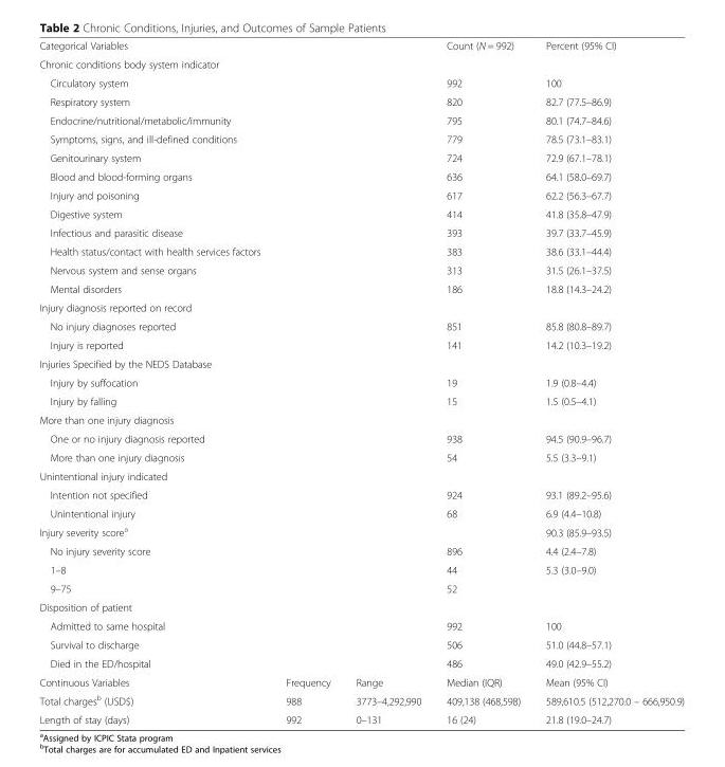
<table><tbody><tr><td>Categorical Variables</td><td></td><td></td><td>Count (N = 992)</td><td>Percent (95% CI)</td></tr><tr><td colspan="5">Chronic conditions body system indicator</td></tr><tr><td>Circulatory system</td><td></td><td></td><td>992</td><td>100</td></tr><tr><td>Respiratory system</td><td></td><td></td><td>820</td><td>82.7 (77.5–86.9)</td></tr><tr><td>Endocrine/nutritional/metabolic/immunity</td><td></td><td></td><td>795</td><td>80.1 (74.7–84.6)</td></tr><tr><td>Symptoms, signs, and ill-defined conditions</td><td></td><td></td><td>779</td><td>78.5 (73.1–83.1)</td></tr><tr><td>Genitourinary system</td><td></td><td></td><td>724</td><td>72.9 (67.1–78.1)</td></tr><tr><td>Blood and blood-forming organs</td><td></td><td></td><td>636</td><td>64.1 (58.0–69.7)</td></tr><tr><td>Injury and poisoning</td><td></td><td></td><td>617</td><td>62.2 (56.3–67.7)</td></tr><tr><td>Digestive system</td><td></td><td></td><td>414</td><td>41.8 (35.8–47.9)</td></tr><tr><td>Infectious and parasitic disease</td><td></td><td></td><td>393</td><td>39.7 (33.7–45.9)</td></tr><tr><td>Health status/contact with health services factors</td><td></td><td></td><td>383</td><td>38.6 (33.1–44.4)</td></tr><tr><td>Nervous system and sense organs</td><td></td><td></td><td>313</td><td>31.5 (26.1–37.5)</td></tr><tr><td>Mental disorders</td><td></td><td></td><td>186</td><td>18.8 (14.3–24.2)</td></tr><tr><td colspan="5">Injury diagnosis reported on record</td></tr><tr><td>No injury diagnoses reported</td><td></td><td></td><td>851</td><td>85.8 (80.8–89.7)</td></tr><tr><td>Injury is reported</td><td></td><td></td><td>141</td><td>14.2 (10.3–19.2)</td></tr><tr><td colspan="5">Injuries Specified by the NEDS Database</td></tr><tr><td>Injury by suffocation</td><td></td><td></td><td>19</td><td>1.9 (0.8–4.4)</td></tr><tr><td>Injury by falling</td><td></td><td></td><td>15</td><td>1.5 (0.5–4.1)</td></tr><tr><td colspan="5">More than one injury diagnosis</td></tr><tr><td>One or no injury diagnosis reported</td><td></td><td></td><td>938</td><td>94.5 (90.9–96.7)</td></tr><tr><td>More than one injury diagnosis</td><td></td><td></td><td>54</td><td>5.5 (3.3–9.1)</td></tr><tr><td colspan="5">Unintentional injury indicated</td></tr><tr><td>Intention not specified</td><td></td><td></td><td>924</td><td>93.1 (89.2–95.6)</td></tr><tr><td>Unintentional injury</td><td></td><td></td><td>68</td><td>6.9 (4.4–10.8)</td></tr><tr><td>Injury severity score<sup>a</sup></td><td></td><td></td><td></td><td>90.3 (85.9–93.5)</td></tr><tr><td>No injury severity score</td><td></td><td></td><td>896</td><td>4.4 (2.4–7.8)</td></tr><tr><td>1–8</td><td></td><td></td><td>44</td><td>5.3 (3.0–9.0)</td></tr><tr><td>9–75</td><td></td><td></td><td>52</td><td></td></tr><tr><td colspan="5">Disposition of patient</td></tr><tr><td>Admitted to same hospital</td><td></td><td></td><td>992</td><td>100</td></tr><tr><td>Survival to discharge</td><td></td><td></td><td>506</td><td>51.0 (44.8–57.1)</td></tr><tr><td>Died in the ED/hospital</td><td></td><td></td><td>486</td><td>49.0 (42.9–55.2)</td></tr><tr><td>Continuous Variables</td><td>Frequency</td><td>Range</td><td>Median (IQR)</td><td>Mean (95% CI)</td></tr><tr><td>Total charges<sup>b</sup> (USD$)</td><td>988</td><td>3773–4,292,990</td><td>409,138 (468,598)</td><td>589,610.5 (512,270.0 – 666,950.9)</td></tr><tr><td>Length of stay (days)</td><td>992</td><td>0–131</td><td>16 (24)</td><td>21.8 (19.0–24.7)</td></tr></tbody></table>